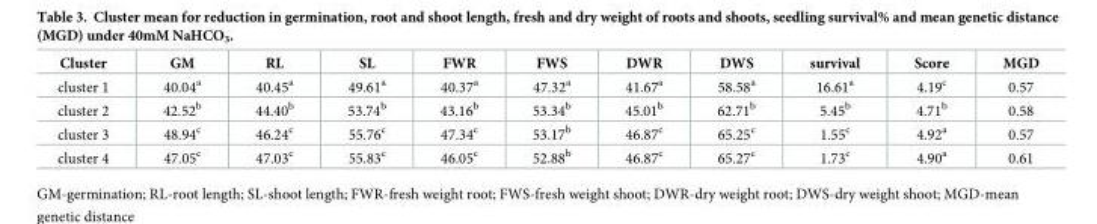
<table><thead><tr><td>Cluster</td><td>GM</td><td>RL</td><td>SL</td><td>FWR</td><td>FWS</td><td>DWR</td><td>DWS</td><td>survival</td><td>Score</td><td>MGD</td></tr></thead><tbody><tr><td>cluster 1</td><td>40.04<sup>a</sup></td><td>40.45<sup>a</sup></td><td>49.61<sup>a</sup></td><td>40.37<sup>a</sup></td><td>47.32<sup>a</sup></td><td>41.67<sup>a</sup></td><td>58.58<sup>a</sup></td><td>16.61<sup>a</sup></td><td>4.19<sup>c</sup></td><td>0.57</td></tr><tr><td>cluster 2</td><td>42.52<sup>b</sup></td><td>44.40<sup>b</sup></td><td>53.74<sup>b</sup></td><td>43.16<sup>b</sup></td><td>53.34<sup>b</sup></td><td>45.01<sup>b</sup></td><td>62.71<sup>b</sup></td><td>5.45<sup>b</sup></td><td>4.71<sup>b</sup></td><td>0.58</td></tr><tr><td>cluster 3</td><td>48.94<sup>c</sup></td><td>46.24<sup>c</sup></td><td>55.76<sup>c</sup></td><td>47.34<sup>c</sup></td><td>53.17<sup>b</sup></td><td>46.87<sup>c</sup></td><td>65.25<sup>c</sup></td><td>1.55<sup>c</sup></td><td>4.92<sup>a</sup></td><td>0.57</td></tr><tr><td>cluster 4</td><td>47.05<sup>c</sup></td><td>47.03<sup>c</sup></td><td>55.83<sup>c</sup></td><td>46.05<sup>c</sup></td><td>52.88<sup>b</sup></td><td>46.87<sup>c</sup></td><td>65.27<sup>c</sup></td><td>1.73<sup>c</sup></td><td>4.90<sup>a</sup></td><td>0.61</td></tr></tbody></table>